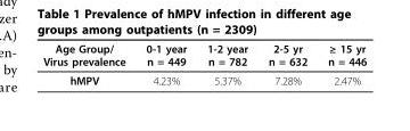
<table><thead><tr><td>Age Group/ Virus prevalence</td><td>0-1 year n = 449</td><td>1-2 year n = 782</td><td>2-5 yr n = 632</td><td>≥ 15 yr n = 446</td></tr></thead><tbody><tr><td>hMPV</td><td>4.23%</td><td>5.37%</td><td>7.28%</td><td>2.47%</td></tr></tbody></table>